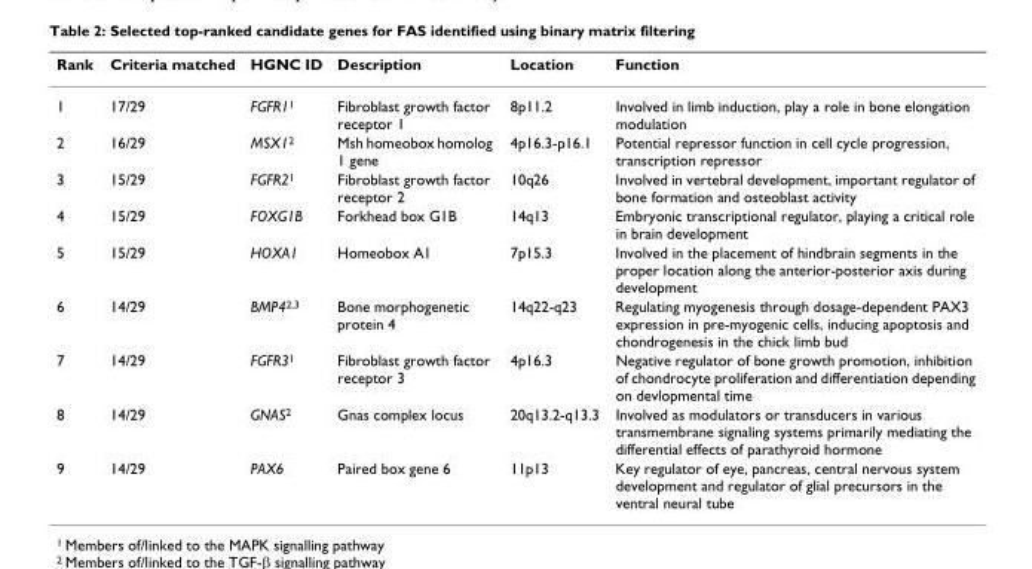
<table><thead><tr><td>Rank</td><td>Criteria matched</td><td>HGNC ID</td><td>Description</td><td>Location</td><td>Function</td></tr></thead><tbody><tr><td>1</td><td>17/29</td><td>FGFR1<sup>1</sup></td><td>Fibroblast growth factor receptor 1</td><td>8p11.2</td><td>Involved in limb induction, play a role in bone elongation modulation</td></tr><tr><td>2</td><td>16/29</td><td>MSX1<sup>2</sup></td><td>Msh homeobox homolog 1 gene</td><td>4p16.3-p16.1</td><td>Potential repressor function in cell cycle progression, transcription repressor</td></tr><tr><td>3</td><td>15/29</td><td>FGFR2<sup>1</sup></td><td>Fibroblast growth factor receptor 2</td><td>10q26</td><td>Involved in vertebral development, important regulator of bone formation and osteoblast activity</td></tr><tr><td>4</td><td>15/29</td><td>FOXG1B</td><td>Forkhead box G1B</td><td>14q13</td><td>Embryonic transcriptional regulator, playing a critical role in brain development</td></tr><tr><td>5</td><td>15/29</td><td>HOXA1</td><td>Homeobox A1</td><td>7p15.3</td><td>Involved in the placement of hindbrain segments in the proper location along the anterior-posterior axis during development</td></tr><tr><td>6</td><td>14/29</td><td>BMP4<sup>2,3</sup></td><td>Bone morphogenetic protein 4</td><td>14q22-q23</td><td>Regulating myogenesis through dosage-dependent PAX3 expression in pre-myogenic cells, inducing apoptosis and chondrogenesis in the chick limb bud</td></tr><tr><td>7</td><td>14/29</td><td>FGFR3<sup>1</sup></td><td>Fibroblast growth factor receptor 3</td><td>4p16.3</td><td>Negative regulator of bone growth promotion, inhibition of chondrocyte proliferation and differentiation depending on devlopmental time</td></tr><tr><td>8</td><td>14/29</td><td>GNAS<sup>2</sup></td><td>Gnas complex locus</td><td>20q13.2-q13.3</td><td>Involved as modulators or transducers in various transmembrane signaling systems primarily mediating the differential effects of parathyroid hormone</td></tr><tr><td>9</td><td>14/29</td><td>PAX6</td><td>Paired box gene 6</td><td>11p13</td><td>Key regulator of eye, pancreas, central nervous system development and regulator of glial precursors in the ventral neural tube</td></tr></tbody></table>